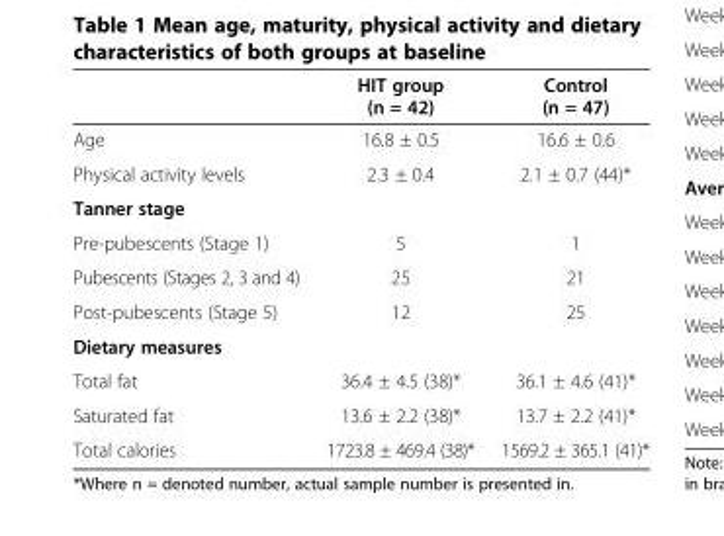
<table><thead><tr><td></td><td>HIT group (n = 42)</td><td>Control (n = 47)</td></tr></thead><tbody><tr><td>Age</td><td>16.8 ± 0.5</td><td>16.6 ± 0.6</td></tr><tr><td>Physical activity levels</td><td>2.3 ± 0.4</td><td>2.1 ± 0.7 (44)*</td></tr><tr><td colspan="3">Tanner stage</td></tr><tr><td>Pre-pubescents (Stage 1)</td><td>5</td><td>1</td></tr><tr><td>Pubescents (Stages 2, 3 and 4)</td><td>25</td><td>21</td></tr><tr><td>Post-pubescents (Stage 5)</td><td>12</td><td>25</td></tr><tr><td colspan="3">Dietary measures</td></tr><tr><td>Total fat</td><td>36.4 ± 4.5 (38)*</td><td>36.1 ± 4.6 (41)*</td></tr><tr><td>Saturated fat</td><td>13.6 ± 2.2 (38)*</td><td>13.7 ± 2.2 (41)*</td></tr><tr><td>Total calories</td><td>1723.8 ± 469.4 (38)*</td><td>1569.2 ± 365.1 (41)*</td></tr></tbody></table>